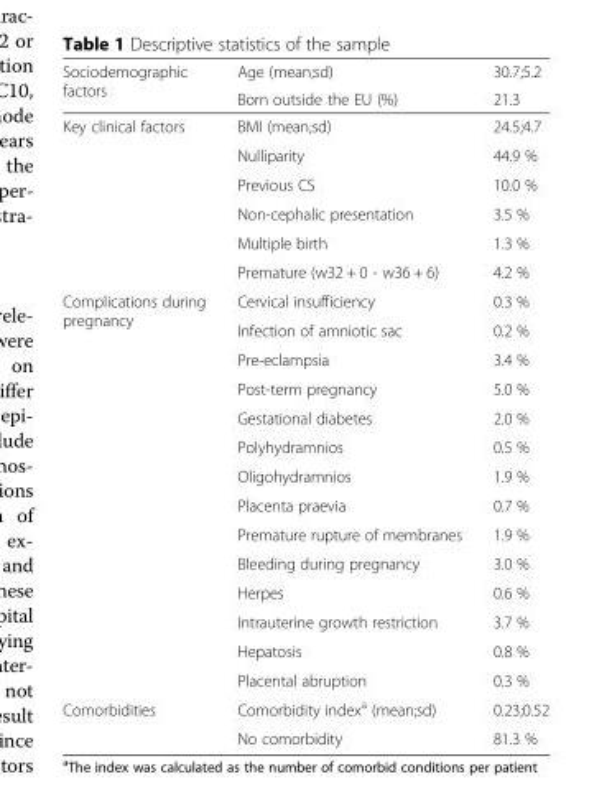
<table><thead><tr><td rowspan="2">Sociodemographic factors</td><td rowspan="2">Age (mean;sd) Born outside the EU (%)</td><td rowspan="2">30.7;5.2 21.3</td></tr><tr></tr></thead><tbody><tr><td rowspan="6">Key clinical factors</td><td>BMI (mean;sd)</td><td>24.5;4.7</td></tr><tr><td>Nulliparity</td><td>44.9 %</td></tr><tr><td>Previous CS</td><td>10.0 %</td></tr><tr><td>Non-cephalic presentation</td><td>3.5 %</td></tr><tr><td>Multiple birth</td><td>1.3 %</td></tr><tr><td>Premature (w32 + 0 - w36 + 6)</td><td>4.2 %</td></tr><tr><td rowspan="14">Complications during pregnancy</td><td>Cervical insufficiency</td><td>0.3 %</td></tr><tr><td>Infection of amniotic sac</td><td>0.2 %</td></tr><tr><td>Pre-eclampsia</td><td>3.4 %</td></tr><tr><td>Post-term pregnancy</td><td>5.0 %</td></tr><tr><td>Gestational diabetes</td><td>2.0 %</td></tr><tr><td>Polyhydramnios</td><td>0.5 %</td></tr><tr><td>Oligohydramnios</td><td>1.9 %</td></tr><tr><td>Placenta praevia</td><td>0.7 %</td></tr><tr><td>Premature rupture of membranes</td><td>1.9 %</td></tr><tr><td>Bleeding during pregnancy</td><td>3.0 %</td></tr><tr><td>Herpes</td><td>0.6 %</td></tr><tr><td>Intrauterine growth restriction</td><td>3.7 %</td></tr><tr><td>Hepatosis</td><td>0.8 %</td></tr><tr><td>Placental abruption</td><td>0.3 %</td></tr><tr><td rowspan="2">Comorbidities</td><td>Comorbidity index<sup>a</sup> (mean;sd)</td><td>0.23;0.52</td></tr><tr><td>No comorbidity</td><td>81.3 %</td></tr></tbody></table>